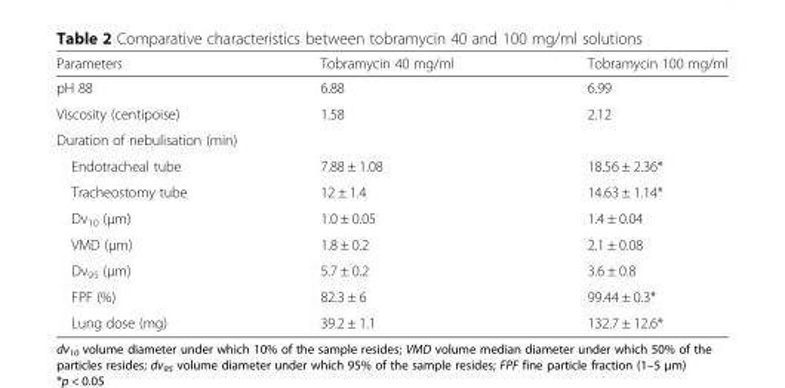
<table><thead><tr><td>Parameters</td><td>Tobramycin 40 mg/ml</td><td>Tobramycin 100 mg/ml</td></tr></thead><tbody><tr><td>pH 88</td><td>6.88</td><td>6.99</td></tr><tr><td>Viscosity (centipoise)</td><td>1.58</td><td>2.12</td></tr><tr><td colspan="3">Duration of nebulisation (min)</td></tr><tr><td>Endotracheal tube</td><td>7.88 ± 1.08</td><td>18.56 ± 2.36*</td></tr><tr><td>Tracheostomy tube</td><td>12 ± 1.4</td><td>14.63 ± 1.14*</td></tr><tr><td>Dv<sub>10</sub> (μm)</td><td>1.0 ± 0.05</td><td>1.4 ± 0.04</td></tr><tr><td>VMD (μm)</td><td>1.8 ± 0.2</td><td>2.1 ± 0.08</td></tr><tr><td>Dv<sub>95</sub> (μm)</td><td>5.7 ± 0.2</td><td>3.6 ± 0.8</td></tr><tr><td>FPF (%)</td><td>82.3 ± 6</td><td>99.44 ± 0.3*</td></tr><tr><td>Lung dose (mg)</td><td>39.2 ± 1.1</td><td>132.7 ± 12.6*</td></tr></tbody></table>